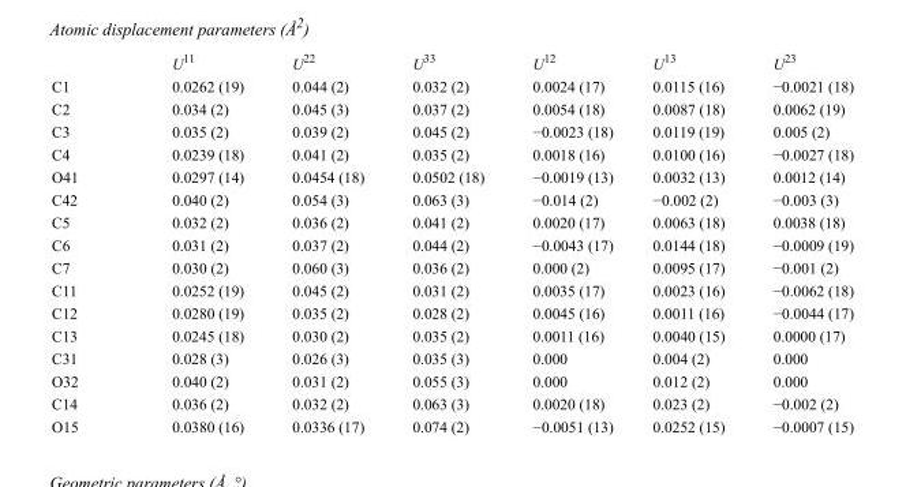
<table><thead><tr><td></td><td>U<sup>11</sup></td><td>U<sup>22</sup></td><td>U<sup>33</sup></td><td>U<sup>12</sup></td><td>U<sup>13</sup></td><td>U<sup>23</sup></td></tr></thead><tbody><tr><td>C1</td><td>0.0262 (19)</td><td>0.044 (2)</td><td>0.032 (2)</td><td>0.0024 (17)</td><td>0.0115 (16)</td><td>−0.0021 (18)</td></tr><tr><td>C2</td><td>0.034 (2)</td><td>0.045 (3)</td><td>0.037 (2)</td><td>0.0054 (18)</td><td>0.0087 (18)</td><td>0.0062 (19)</td></tr><tr><td>C3</td><td>0.035 (2)</td><td>0.039 (2)</td><td>0.045 (2)</td><td>−0.0023 (18)</td><td>0.0119 (19)</td><td>0.005 (2)</td></tr><tr><td>C4</td><td>0.0239 (18)</td><td>0.041 (2)</td><td>0.035 (2)</td><td>0.0018 (16)</td><td>0.0100 (16)</td><td>−0.0027 (18)</td></tr><tr><td>O41</td><td>0.0297 (14)</td><td>0.0454 (18)</td><td>0.0502 (18)</td><td>−0.0019 (13)</td><td>0.0032 (13)</td><td>0.0012 (14)</td></tr><tr><td>C42</td><td>0.040 (2)</td><td>0.054 (3)</td><td>0.063 (3)</td><td>−0.014 (2)</td><td>−0.002 (2)</td><td>−0.003 (3)</td></tr><tr><td>C5</td><td>0.032 (2)</td><td>0.036 (2)</td><td>0.041 (2)</td><td>0.0020 (17)</td><td>0.0063 (18)</td><td>0.0038 (18)</td></tr><tr><td>C6</td><td>0.031 (2)</td><td>0.037 (2)</td><td>0.044 (2)</td><td>−0.0043 (17)</td><td>0.0144 (18)</td><td>−0.0009 (19)</td></tr><tr><td>C7</td><td>0.030 (2)</td><td>0.060 (3)</td><td>0.036 (2)</td><td>0.000 (2)</td><td>0.0095 (17)</td><td>−0.001 (2)</td></tr><tr><td>C11</td><td>0.0252 (19)</td><td>0.045 (2)</td><td>0.031 (2)</td><td>0.0035 (17)</td><td>0.0023 (16)</td><td>−0.0062 (18)</td></tr><tr><td>C12</td><td>0.0280 (19)</td><td>0.035 (2)</td><td>0.028 (2)</td><td>0.0045 (16)</td><td>0.0011 (16)</td><td>−0.0044 (17)</td></tr><tr><td>C13</td><td>0.0245 (18)</td><td>0.030 (2)</td><td>0.035 (2)</td><td>0.0011 (16)</td><td>0.0040 (15)</td><td>0.0000 (17)</td></tr><tr><td>C31</td><td>0.028 (3)</td><td>0.026 (3)</td><td>0.035 (3)</td><td>0.000</td><td>0.004 (2)</td><td>0.000</td></tr><tr><td>O32</td><td>0.040 (2)</td><td>0.031 (2)</td><td>0.055 (3)</td><td>0.000</td><td>0.012 (2)</td><td>0.000</td></tr><tr><td>C14</td><td>0.036 (2)</td><td>0.032 (2)</td><td>0.063 (3)</td><td>0.0020 (18)</td><td>0.023 (2)</td><td>−0.002 (2)</td></tr><tr><td>O15</td><td>0.0380 (16)</td><td>0.0336 (17)</td><td>0.074 (2)</td><td>−0.0051 (13)</td><td>0.0252 (15)</td><td>−0.0007 (15)</td></tr></tbody></table>